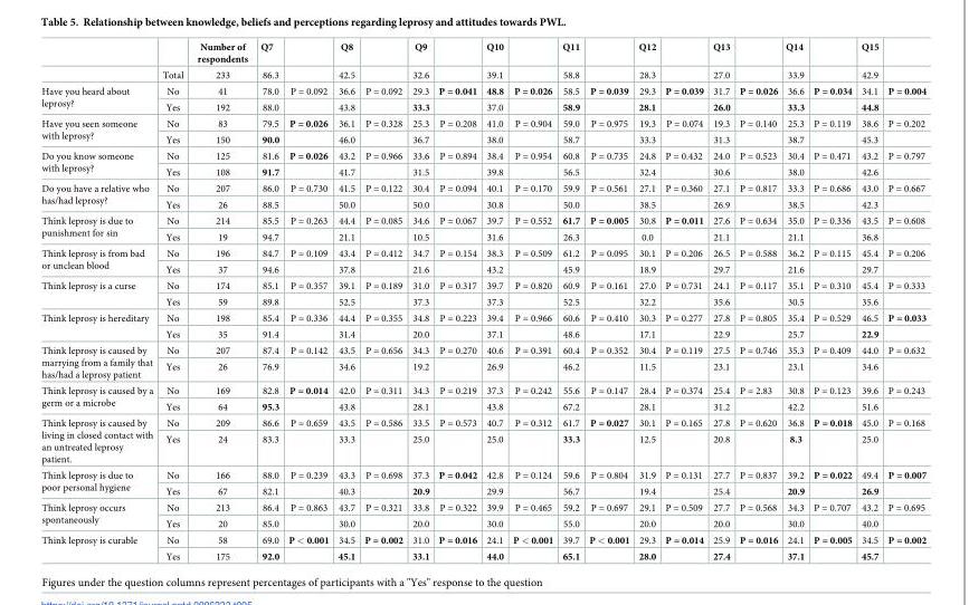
<table><thead><tr><td></td><td></td><td>Number of respondents</td><td>Q7</td><td></td><td>Q8</td><td></td><td>Q9</td><td></td><td>Q10</td><td></td><td>Q11</td><td></td><td>Q12</td><td></td><td>Q13</td><td></td><td>Q14</td><td></td><td>Q15</td><td></td></tr></thead><tbody><tr><td></td><td>Total</td><td>233</td><td>86.3</td><td></td><td>42.5</td><td></td><td>32.6</td><td></td><td>39.1</td><td></td><td>58.8</td><td></td><td>28.3</td><td></td><td>27.0</td><td></td><td>33.9</td><td></td><td>42.9</td><td></td></tr><tr><td rowspan="2">Have you heard about leprosy?</td><td>No</td><td>41</td><td>78.0</td><td>P = 0.092</td><td>36.6</td><td>P = 0.092</td><td>29.3</td><td>P = 0.041</td><td>48.8</td><td>P = 0.026</td><td>58.5</td><td>P = 0.039</td><td>29.3</td><td>P = 0.039</td><td>31.7</td><td>P = 0.026</td><td>36.6</td><td>P = 0.034</td><td>34.1</td><td>P = 0.004</td></tr><tr><td>Yes</td><td>192</td><td>88.0</td><td></td><td>43.8</td><td></td><td>33.3</td><td></td><td>37.0</td><td></td><td>58.9</td><td></td><td>28.1</td><td></td><td>26.0</td><td></td><td>33.3</td><td></td><td>44.8</td><td></td></tr><tr><td rowspan="2">Have you seen someone with leprosy?</td><td>No</td><td>83</td><td>79.5</td><td>P = 0.026</td><td>36.1</td><td>P = 0.328</td><td>25.3</td><td>P = 0.208</td><td>41.0</td><td>P = 0.904</td><td>59.0</td><td>P = 0.975</td><td>19.3</td><td>P = 0.074</td><td>19.3</td><td>P = 0.140</td><td>25.3</td><td>P = 0.119</td><td>38.6</td><td>P = 0.202</td></tr><tr><td>Yes</td><td>150</td><td>90.0</td><td></td><td>46.0</td><td></td><td>36.7</td><td></td><td>38.0</td><td></td><td>58.7</td><td></td><td>33.3</td><td></td><td>31.3</td><td></td><td>38.7</td><td></td><td>45.3</td><td></td></tr><tr><td rowspan="2">Do you know someone with leprosy?</td><td>No</td><td>125</td><td>81.6</td><td>P = 0.026</td><td>43.2</td><td>P = 0.966</td><td>33.6</td><td>P = 0.894</td><td>38.4</td><td>P = 0.954</td><td>60.8</td><td>P = 0.735</td><td>24.8</td><td>P = 0.432</td><td>24.0</td><td>P = 0.523</td><td>30.4</td><td>P = 0.471</td><td>43.2</td><td>P = 0.797</td></tr><tr><td>Yes</td><td>108</td><td>91.7</td><td></td><td>41.7</td><td></td><td>31.5</td><td></td><td>39.8</td><td></td><td>56.5</td><td></td><td>32.4</td><td></td><td>30.6</td><td></td><td>38.0</td><td></td><td>42.6</td><td></td></tr><tr><td rowspan="2">Do you have a relative who has/had leprosy?</td><td>No</td><td>207</td><td>86.0</td><td>P = 0.730</td><td>41.5</td><td>P = 0.122</td><td>30.4</td><td>P = 0.094</td><td>40.1</td><td>P = 0.170</td><td>59.9</td><td>P = 0.561</td><td>27.1</td><td>P = 0.360</td><td>27.1</td><td>P = 0.817</td><td>33.3</td><td>P = 0.686</td><td>43.0</td><td>P = 0.667</td></tr><tr><td>Yes</td><td>26</td><td>88.5</td><td></td><td>50.0</td><td></td><td>50.0</td><td></td><td>30.8</td><td></td><td>50.0</td><td></td><td>38.5</td><td></td><td>26.9</td><td></td><td>38.5</td><td></td><td>42.3</td><td></td></tr><tr><td rowspan="2">Think leprosy is due to punishment for sin</td><td>No</td><td>214</td><td>85.5</td><td>P = 0.263</td><td>44.4</td><td>P = 0.085</td><td>34.6</td><td>P = 0.067</td><td>39.7</td><td>P = 0.552</td><td>61.7</td><td>P = 0.005</td><td>30.8</td><td>P = 0.011</td><td>27.6</td><td>P = 0.634</td><td>35.0</td><td>P = 0.336</td><td>43.5</td><td>P = 0.608</td></tr><tr><td>Yes</td><td>19</td><td>94.7</td><td></td><td>21.1</td><td></td><td>10.5</td><td></td><td>31.6</td><td></td><td>26.3</td><td></td><td>0.0</td><td></td><td>21.1</td><td></td><td>21.1</td><td></td><td>36.8</td><td></td></tr><tr><td rowspan="2">Think leprosy is from bad or unclean blood</td><td>No</td><td>196</td><td>84.7</td><td>P = 0.109</td><td>43.4</td><td>P = 0.412</td><td>34.7</td><td>P = 0.154</td><td>38.3</td><td>P = 0.509</td><td>61.2</td><td>P = 0.095</td><td>30.1</td><td>P = 0.206</td><td>26.5</td><td>P = 0.588</td><td>36.2</td><td>P = 0.115</td><td>45.4</td><td>P = 0.206</td></tr><tr><td>Yes</td><td>37</td><td>94.6</td><td></td><td>37.8</td><td></td><td>21.6</td><td></td><td>43.2</td><td></td><td>45.9</td><td></td><td>18.9</td><td></td><td>29.7</td><td></td><td>21.6</td><td></td><td>29.7</td><td></td></tr><tr><td rowspan="2">Think leprosy is a curse</td><td>No</td><td>174</td><td>85.1</td><td>P = 0.357</td><td>39.1</td><td>P = 0.189</td><td>31.0</td><td>P = 0.317</td><td>39.7</td><td>P = 0.820</td><td>60.9</td><td>P = 0.161</td><td>27.0</td><td>P = 0.731</td><td>24.1</td><td>P = 0.117</td><td>35.1</td><td>P = 0.310</td><td>45.4</td><td>P = 0.333</td></tr><tr><td>Yes</td><td>59</td><td>89.8</td><td></td><td>52.5</td><td></td><td>37.3</td><td></td><td>37.3</td><td></td><td>52.5</td><td></td><td>32.2</td><td></td><td>35.6</td><td></td><td>30.5</td><td></td><td>35.6</td><td></td></tr><tr><td rowspan="2">Think leprosy is hereditary</td><td>No</td><td>198</td><td>85.4</td><td>P = 0.336</td><td>44.4</td><td>P = 0.355</td><td>34.8</td><td>P = 0.223</td><td>39.4</td><td>P = 0.966</td><td>60.6</td><td>P = 0.410</td><td>30.3</td><td>P = 0.277</td><td>27.8</td><td>P = 0.805</td><td>35.4</td><td>P = 0.529</td><td>46.5</td><td>P = 0.033</td></tr><tr><td>Yes</td><td>35</td><td>91.4</td><td></td><td>31.4</td><td></td><td>20.0</td><td></td><td>37.1</td><td></td><td>48.6</td><td></td><td>17.1</td><td></td><td>22.9</td><td></td><td>25.7</td><td></td><td>22.9</td><td></td></tr><tr><td rowspan="2">Think leprosy is caused by marrying from a family that has/had a leprosy patient</td><td>No</td><td>207</td><td>87.4</td><td>P = 0.142</td><td>43.5</td><td>P = 0.656</td><td>34.3</td><td>P = 0.270</td><td>40.6</td><td>P = 0.391</td><td>60.4</td><td>P = 0.352</td><td>30.4</td><td>P = 0.119</td><td>27.5</td><td>P = 0.746</td><td>35.3</td><td>P = 0.409</td><td>44.0</td><td>P = 0.632</td></tr><tr><td>Yes</td><td>26</td><td>76.9</td><td></td><td>34.6</td><td></td><td>19.2</td><td></td><td>26.9</td><td></td><td>46.2</td><td></td><td>11.5</td><td></td><td>23.1</td><td></td><td>23.1</td><td></td><td>34.6</td><td></td></tr><tr><td rowspan="2">Think leprosy is caused by a germ or a microbe</td><td>No</td><td>169</td><td>82.8</td><td>P = 0.014</td><td>42.0</td><td>P = 0.311</td><td>34.3</td><td>P = 0.219</td><td>37.3</td><td>P = 0.242</td><td>55.6</td><td>P = 0.147</td><td>28.4</td><td>P = 0.374</td><td>25.4</td><td>P = 2.83</td><td>30.8</td><td>P = 0.123</td><td>39.6</td><td>P = 0.243</td></tr><tr><td>Yes</td><td>64</td><td>95.3</td><td></td><td>43.8</td><td></td><td>28.1</td><td></td><td>43.8</td><td></td><td>67.2</td><td></td><td>28.1</td><td></td><td>31.2</td><td></td><td>42.2</td><td></td><td>51.6</td><td></td></tr><tr><td rowspan="2">Think leprosy is caused by living in closed contact with an untreated leprosy patient.</td><td>No</td><td>209</td><td>86.6</td><td>P = 0.659</td><td>43.5</td><td>P = 0.586</td><td>33.5</td><td>P = 0.573</td><td>40.7</td><td>P = 0.312</td><td>61.7</td><td>P = 0.027</td><td>30.1</td><td>P = 0.165</td><td>27.8</td><td>P = 0.620</td><td>36.8</td><td>P = 0.018</td><td>45.0</td><td>P = 0.168</td></tr><tr><td>Yes</td><td>24</td><td>83.3</td><td></td><td>33.3</td><td></td><td>25.0</td><td></td><td>25.0</td><td></td><td>33.3</td><td></td><td>12.5</td><td></td><td>20.8</td><td></td><td>8.3</td><td></td><td>25.0</td><td></td></tr><tr><td rowspan="2">Think leprosy is due to poor personal hygiene</td><td>No</td><td>166</td><td>88.0</td><td>P = 0.239</td><td>43.3</td><td>P = 0.698</td><td>37.3</td><td>P = 0.042</td><td>42.8</td><td>P = 0.124</td><td>59.6</td><td>P = 0.804</td><td>31.9</td><td>P = 0.131</td><td>27.7</td><td>P = 0.837</td><td>39.2</td><td>P = 0.022</td><td>49.4</td><td>P = 0.007</td></tr><tr><td>Yes</td><td>67</td><td>82.1</td><td></td><td>40.3</td><td></td><td>20.9</td><td></td><td>29.9</td><td></td><td>56.7</td><td></td><td>19.4</td><td></td><td>25.4</td><td></td><td>20.9</td><td></td><td>26.9</td><td></td></tr><tr><td rowspan="2">Think leprosy occurs spontaneously</td><td>No</td><td>213</td><td>86.4</td><td>P = 0.863</td><td>43.7</td><td>P = 0.321</td><td>33.8</td><td>P = 0.322</td><td>39.9</td><td>P = 0.465</td><td>59.2</td><td>P = 0.697</td><td>29.1</td><td>P = 0.509</td><td>27.7</td><td>P = 0.568</td><td>34.3</td><td>P = 0.707</td><td>43.2</td><td>P = 0.695</td></tr><tr><td>Yes</td><td>20</td><td>85.0</td><td></td><td>30.0</td><td></td><td>20.0</td><td></td><td>30.0</td><td></td><td>55.0</td><td></td><td>20.0</td><td></td><td>20.0</td><td></td><td>30.0</td><td></td><td>40.0</td><td></td></tr><tr><td rowspan="2">Think leprosy is curable</td><td>No</td><td>58</td><td>69.0</td><td>P &lt; 0.001</td><td>34.5</td><td>P = 0.002</td><td>31.0</td><td>P = 0.016</td><td>24.1</td><td>P &lt; 0.001</td><td>39.7</td><td>P &lt; 0.001</td><td>29.3</td><td>P = 0.014</td><td>25.9</td><td>P = 0.016</td><td>24.1</td><td>P = 0.005</td><td>34.5</td><td>P = 0.002</td></tr><tr><td>Yes</td><td>175</td><td>92.0</td><td></td><td>45.1</td><td></td><td>33.1</td><td></td><td>44.0</td><td></td><td>65.1</td><td></td><td>28.0</td><td></td><td>27.4</td><td></td><td>37.1</td><td></td><td>45.7</td><td></td></tr></tbody></table>